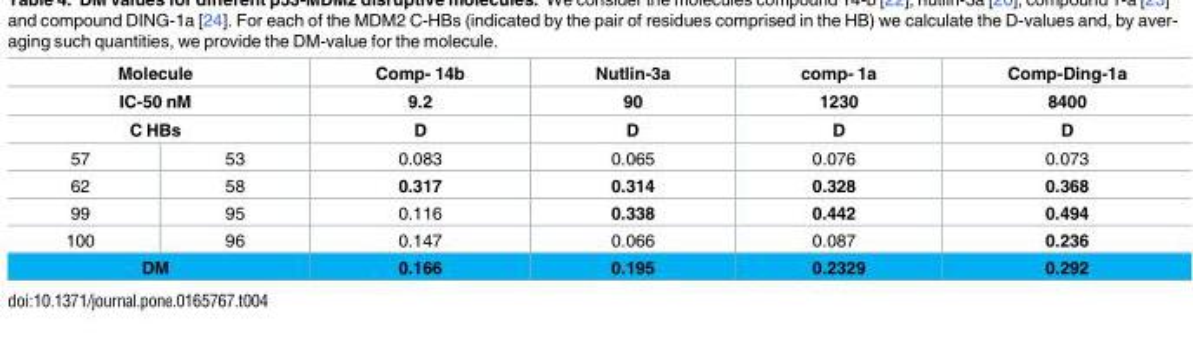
<table><thead><tr><td rowspan="3" colspan="2">Molecule IC-50 nM C HBs</td><td rowspan="4">Comp- 14b 9.2 D 0.083</td><td rowspan="4">Nutlin-3a 90 D 0.065</td><td rowspan="4">comp- 1a 1230 D 0.076</td><td rowspan="4">Comp-Ding-1a 8400 D 0.073</td></tr><tr></tr><tr></tr><tr><td>57</td><td>53</td></tr></thead><tbody><tr><td>62</td><td>58</td><td>0.317</td><td>0.314</td><td>0.328</td><td>0.368</td></tr><tr><td>99</td><td>95</td><td>0.116</td><td>0.338</td><td>0.442</td><td>0.494</td></tr><tr><td>100</td><td>96</td><td>0.147</td><td>0.066</td><td>0.087</td><td>0.236</td></tr><tr><td colspan="2">DM</td><td>0.166</td><td>0.195</td><td>0.2329</td><td>0.292</td></tr></tbody></table>